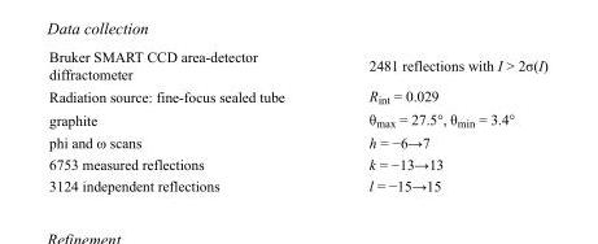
<table><tbody><tr><td>Bruker SMART CCD area-detector diffractometer</td><td>2481 reflections with I &gt; 2σ(I)</td></tr><tr><td>Radiation source: fine-focus sealed tube</td><td>R<sub>int</sub> = 0.029</td></tr><tr><td>graphite</td><td>θ<sub>max</sub> = 27.5°, θ<sub>min</sub> = 3.4°</td></tr><tr><td>phi and ω scans</td><td>h = −6→7</td></tr><tr><td>6753 measured reflections</td><td>k = −13→13</td></tr><tr><td>3124 independent reflections</td><td>l = −15→15</td></tr></tbody></table>